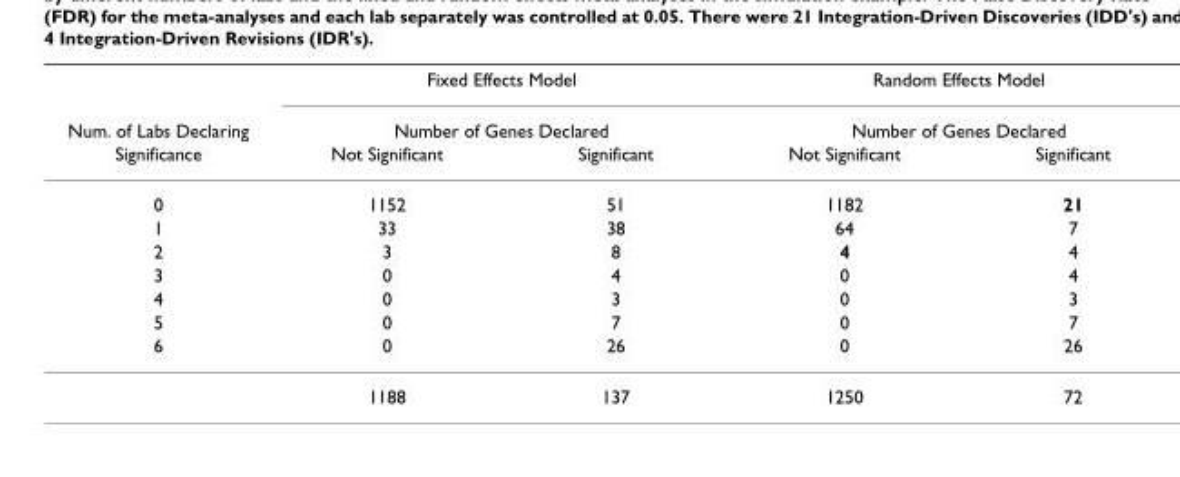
<table><thead><tr><td rowspan="3">Num. of Labs Declaring Significance</td><td rowspan="2" colspan="2">Fixed Effects Model Number of Genes Declared</td><td rowspan="2" colspan="2">Random Effects Model Number of Genes Declared</td></tr><tr></tr><tr><td>Not Significant</td><td>Significant</td><td>Not Significant</td><td>Significant</td></tr></thead><tbody><tr><td>0</td><td>1152</td><td>51</td><td>1182</td><td>21</td></tr><tr><td>1</td><td>33</td><td>38</td><td>64</td><td>7</td></tr><tr><td>2</td><td>3</td><td>8</td><td>4</td><td>4</td></tr><tr><td>3</td><td>0</td><td>4</td><td>0</td><td>4</td></tr><tr><td>4</td><td>0</td><td>3</td><td>0</td><td>3</td></tr><tr><td>5</td><td>0</td><td>7</td><td>0</td><td>7</td></tr><tr><td rowspan="2">6</td><td>0</td><td>26</td><td>0</td><td>26</td></tr><tr><td>1188</td><td>137</td><td>1250</td><td>72</td></tr></tbody></table>